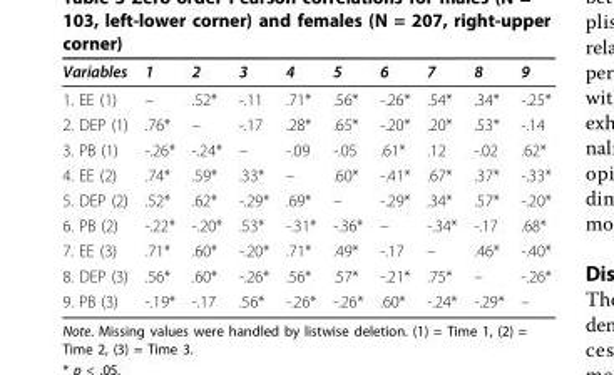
<table><thead><tr><td>Variables</td><td>1</td><td>2</td><td>3</td><td>4</td><td>5</td><td>6</td><td>7</td><td>8</td><td>9</td></tr></thead><tbody><tr><td>1. EE (1)</td><td>–</td><td>.52*</td><td>-.11</td><td>.71*</td><td>.56*</td><td>-.26*</td><td>.54*</td><td>.34*</td><td>-.25*</td></tr><tr><td>2. DEP (1)</td><td>.76*</td><td>–</td><td>-.17</td><td>.28*</td><td>.65*</td><td>-.20*</td><td>.20*</td><td>.53*</td><td>-.14</td></tr><tr><td>3. PB (1)</td><td>-.26*</td><td>-.24*</td><td>–</td><td>-.09</td><td>-.05</td><td>.61*</td><td>.12</td><td>-.02</td><td>.62*</td></tr><tr><td>4. EE (2)</td><td>.74*</td><td>.59*</td><td>.33*</td><td>–</td><td>.60*</td><td>-.41*</td><td>.67*</td><td>.37*</td><td>-.33*</td></tr><tr><td>5. DEP (2)</td><td>.52*</td><td>.62*</td><td>-.29*</td><td>.69*</td><td>–</td><td>-.29*</td><td>.34*</td><td>.57*</td><td>-.20*</td></tr><tr><td>6. PB (2)</td><td>-.22*</td><td>-.20*</td><td>.53*</td><td>-.31*</td><td>-.36*</td><td>–</td><td>-.34*</td><td>-.17</td><td>.68*</td></tr><tr><td>7. EE (3)</td><td>.71*</td><td>.60*</td><td>-.20*</td><td>.71*</td><td>.49*</td><td>-.17</td><td>–</td><td>.46*</td><td>-.40*</td></tr><tr><td>8. DEP (3)</td><td>.56*</td><td>.60*</td><td>-.26*</td><td>.56*</td><td>.57*</td><td>-.21*</td><td>.75*</td><td>–</td><td>-.26*</td></tr><tr><td>9. PB (3)</td><td>-.19*</td><td>-.17</td><td>.56*</td><td>-.26*</td><td>-.26*</td><td>.60*</td><td>-.24*</td><td>-.29*</td><td>–</td></tr></tbody></table>